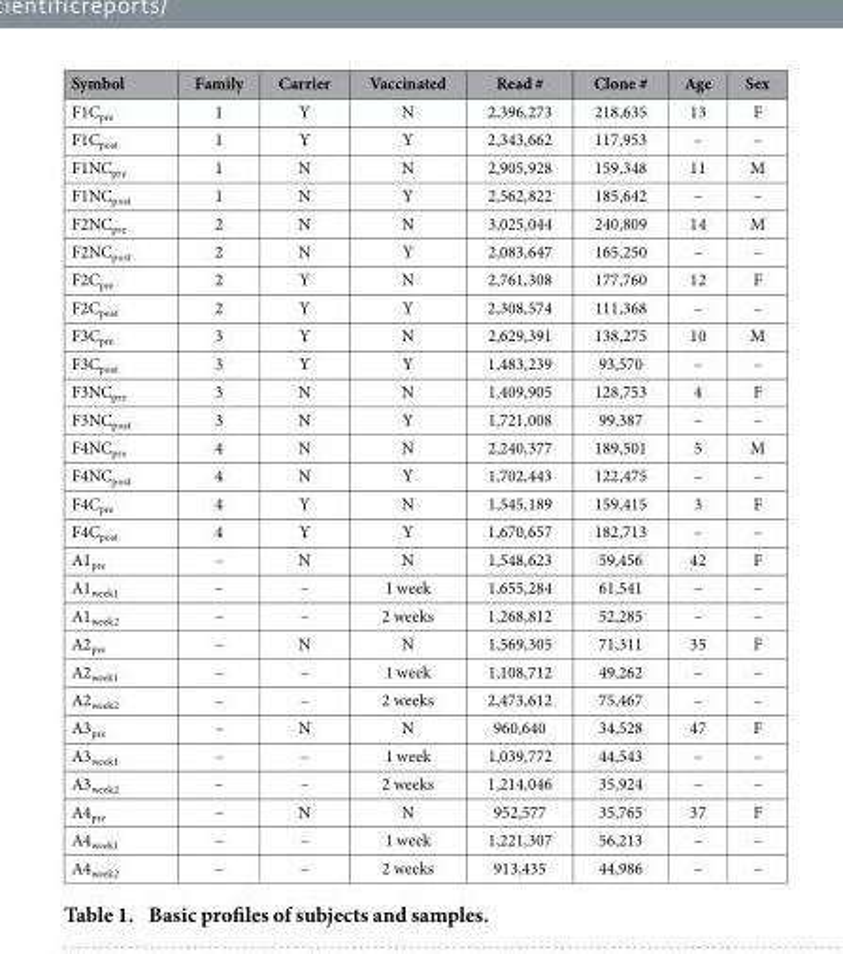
<table><thead><tr><td>Symbol</td><td>Family</td><td>Carrier</td><td>Vaccinated</td><td>Read #</td><td>Clone #</td><td>Age</td><td>Sex</td></tr></thead><tbody><tr><td>F1C<sub>pre</sub></td><td>1</td><td>Y</td><td>N</td><td>2,396,273</td><td>218,635</td><td>13</td><td>F</td></tr><tr><td>F1C<sub>post</sub></td><td>1</td><td>Y</td><td>Y</td><td>2,343,662</td><td>117,953</td><td>–</td><td>–</td></tr><tr><td>F1NC<sub>pre</sub></td><td>1</td><td>N</td><td>N</td><td>2,905,928</td><td>159,348</td><td>11</td><td>M</td></tr><tr><td>F1NC<sub>post</sub></td><td>1</td><td>N</td><td>Y</td><td>2,562,822</td><td>185,642</td><td>–</td><td>–</td></tr><tr><td>F2NC<sub>pre</sub></td><td>2</td><td>N</td><td>N</td><td>3,025,044</td><td>240,809</td><td>14</td><td>M</td></tr><tr><td>F2NC<sub>post</sub></td><td>2</td><td>N</td><td>Y</td><td>2,083,647</td><td>165,250</td><td>–</td><td>–</td></tr><tr><td>F2C<sub>pre</sub></td><td>2</td><td>Y</td><td>N</td><td>2,761,308</td><td>177,760</td><td>12</td><td>F</td></tr><tr><td>F2C<sub>post</sub></td><td>2</td><td>Y</td><td>Y</td><td>2,308,574</td><td>111,368</td><td>–</td><td>–</td></tr><tr><td>F3C<sub>pre</sub></td><td>3</td><td>Y</td><td>N</td><td>2,629,391</td><td>138,275</td><td>10</td><td>M</td></tr><tr><td>F3C<sub>post</sub></td><td>3</td><td>Y</td><td>Y</td><td>1,483,239</td><td>93,570</td><td>–</td><td>–</td></tr><tr><td>F3NC<sub>pre</sub></td><td>3</td><td>N</td><td>N</td><td>1,409,905</td><td>128,753</td><td>4</td><td>F</td></tr><tr><td>F3NC<sub>post</sub></td><td>3</td><td>N</td><td>Y</td><td>1,721,008</td><td>99,387</td><td>–</td><td>–</td></tr><tr><td>F4NC<sub>pre</sub></td><td>4</td><td>N</td><td>N</td><td>2,240,377</td><td>189,501</td><td>5</td><td>M</td></tr><tr><td>F4NC<sub>post</sub></td><td>4</td><td>N</td><td>Y</td><td>1,702,443</td><td>122,475</td><td>–</td><td>–</td></tr><tr><td>F4C<sub>pre</sub></td><td>4</td><td>Y</td><td>N</td><td>1,545,189</td><td>159,415</td><td>3</td><td>F</td></tr><tr><td>F4C<sub>post</sub></td><td>4</td><td>Y</td><td>Y</td><td>1,670,657</td><td>182,713</td><td>–</td><td>–</td></tr><tr><td>A1<sub>pre</sub></td><td>–</td><td>N</td><td>N</td><td>1,548,623</td><td>59,456</td><td>42</td><td>F</td></tr><tr><td>A1<sub>week1</sub></td><td>–</td><td>–</td><td>1 week</td><td>1,655,284</td><td>61,541</td><td>–</td><td>–</td></tr><tr><td>A1<sub>week2</sub></td><td>–</td><td>–</td><td>2 weeks</td><td>1,268,812</td><td>52,285</td><td>–</td><td>–</td></tr><tr><td>A2<sub>pre</sub></td><td>–</td><td>N</td><td>N</td><td>1,569,305</td><td>71,311</td><td>35</td><td>F</td></tr><tr><td>A2<sub>week1</sub></td><td>–</td><td>–</td><td>1 week</td><td>1,108,712</td><td>49,262</td><td>–</td><td>–</td></tr><tr><td>A2<sub>week2</sub></td><td>–</td><td>–</td><td>2 weeks</td><td>2,473,612</td><td>75,467</td><td>–</td><td>–</td></tr><tr><td>A3<sub>pre</sub></td><td>–</td><td>N</td><td>N</td><td>960,640</td><td>34,528</td><td>47</td><td>F</td></tr><tr><td>A3<sub>week1</sub></td><td>–</td><td>–</td><td>1 week</td><td>1,039,772</td><td>44,543</td><td>–</td><td>–</td></tr><tr><td>A3<sub>week2</sub></td><td>–</td><td>–</td><td>2 weeks</td><td>1,214,046</td><td>35,924</td><td>–</td><td>–</td></tr><tr><td>A4<sub>pre</sub></td><td>–</td><td>N</td><td>N</td><td>952,577</td><td>35,765</td><td>37</td><td>F</td></tr><tr><td>A4<sub>week1</sub></td><td>–</td><td>–</td><td>1 week</td><td>1,221,307</td><td>56,213</td><td>–</td><td>–</td></tr><tr><td>A4<sub>week2</sub></td><td>–</td><td>–</td><td>2 weeks</td><td>913,435</td><td>44,986</td><td>–</td><td>–</td></tr></tbody></table>